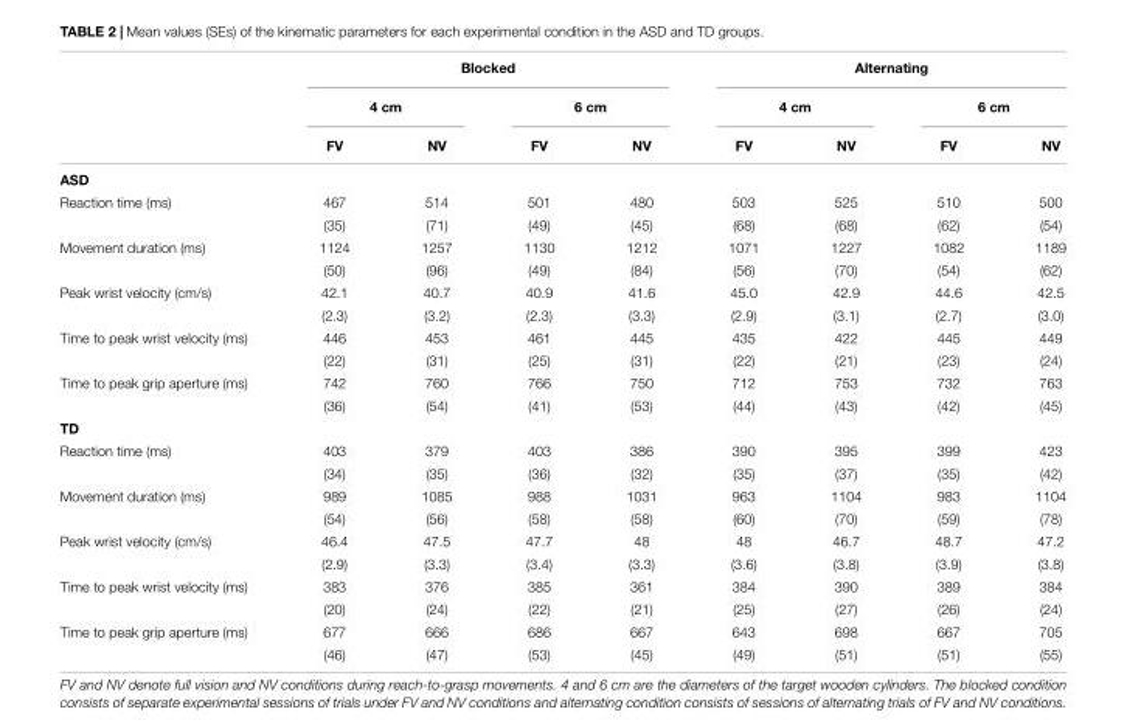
<table><thead><tr><td rowspan="3"></td><td colspan="4">Blocked</td><td colspan="4">Alternating</td></tr><tr><td colspan="2">4 cm</td><td colspan="2">6 cm</td><td colspan="2">4 cm</td><td colspan="2">6 cm</td></tr><tr><td>FV</td><td>NV</td><td>FV</td><td>NV</td><td>FV</td><td>NV</td><td>FV</td><td>NV</td></tr></thead><tbody><tr><td colspan="9">ASD</td></tr><tr><td rowspan="2">Reaction time (ms)</td><td>467</td><td>514</td><td>501</td><td>480</td><td>503</td><td>525</td><td>510</td><td>500</td></tr><tr><td>(35)</td><td>(71)</td><td>(49)</td><td>(45)</td><td>(68)</td><td>(68)</td><td>(62)</td><td>(54)</td></tr><tr><td rowspan="2">Movement duration (ms)</td><td>1124</td><td>1257</td><td>1130</td><td>1212</td><td>1071</td><td>1227</td><td>1082</td><td>1189</td></tr><tr><td>(50)</td><td>(96)</td><td>(49)</td><td>(84)</td><td>(56)</td><td>(70)</td><td>(54)</td><td>(62)</td></tr><tr><td rowspan="2">Peak wrist velocity (cm/s)</td><td>42.1</td><td>40.7</td><td>40.9</td><td>41.6</td><td>45.0</td><td>42.9</td><td>44.6</td><td>42.5</td></tr><tr><td>(2.3)</td><td>(3.2)</td><td>(2.3)</td><td>(3.3)</td><td>(2.9)</td><td>(3.1)</td><td>(2.7)</td><td>(3.0)</td></tr><tr><td rowspan="2">Time to peak wrist velocity (ms)</td><td>446</td><td>453</td><td>461</td><td>445</td><td>435</td><td>422</td><td>445</td><td>449</td></tr><tr><td>(22)</td><td>(31)</td><td>(25)</td><td>(31)</td><td>(22)</td><td>(21)</td><td>(23)</td><td>(24)</td></tr><tr><td rowspan="2">Time to peak grip aperture (ms)</td><td>742</td><td>760</td><td>766</td><td>750</td><td>712</td><td>753</td><td>732</td><td>763</td></tr><tr><td>(36)</td><td>(54)</td><td>(41)</td><td>(53)</td><td>(44)</td><td>(43)</td><td>(42)</td><td>(45)</td></tr><tr><td colspan="9">TD</td></tr><tr><td rowspan="2">Reaction time (ms)</td><td>403</td><td>379</td><td>403</td><td>386</td><td>390</td><td>395</td><td>399</td><td>423</td></tr><tr><td>(34)</td><td>(35)</td><td>(36)</td><td>(32)</td><td>(35)</td><td>(37)</td><td>(35)</td><td>(42)</td></tr><tr><td rowspan="2">Movement duration (ms)</td><td>989</td><td>1085</td><td>988</td><td>1031</td><td>963</td><td>1104</td><td>983</td><td>1104</td></tr><tr><td>(54)</td><td>(56)</td><td>(58)</td><td>(58)</td><td>(60)</td><td>(70)</td><td>(59)</td><td>(78)</td></tr><tr><td rowspan="2">Peak wrist velocity (cm/s)</td><td>46.4</td><td>47.5</td><td>47.7</td><td>48</td><td>48</td><td>46.7</td><td>48.7</td><td>47.2</td></tr><tr><td>(2.9)</td><td>(3.3)</td><td>(3.4)</td><td>(3.3)</td><td>(3.6)</td><td>(3.8)</td><td>(3.9)</td><td>(3.8)</td></tr><tr><td rowspan="2">Time to peak wrist velocity (ms)</td><td>383</td><td>376</td><td>385</td><td>361</td><td>384</td><td>390</td><td>389</td><td>384</td></tr><tr><td>(20)</td><td>(24)</td><td>(22)</td><td>(21)</td><td>(25)</td><td>(27)</td><td>(26)</td><td>(24)</td></tr><tr><td rowspan="2">Time to peak grip aperture (ms)</td><td>677</td><td>666</td><td>686</td><td>667</td><td>643</td><td>698</td><td>667</td><td>705</td></tr><tr><td>(46)</td><td>(47)</td><td>(53)</td><td>(45)</td><td>(49)</td><td>(51)</td><td>(51)</td><td>(55)</td></tr></tbody></table>